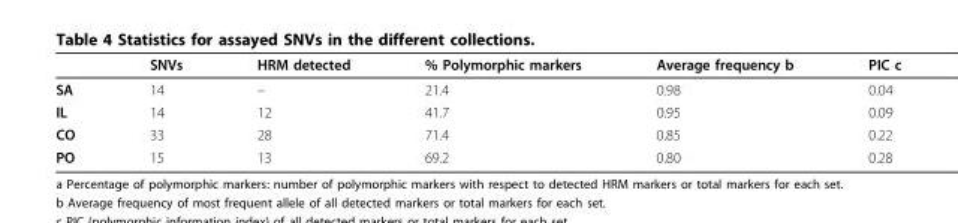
<table><thead><tr><td></td><td>SNVs</td><td>HRM detected</td><td>% Polymorphic markers</td><td>Average frequency b</td><td>PIC c</td></tr></thead><tbody><tr><td>SA</td><td>14</td><td>–</td><td>21.4</td><td>0.98</td><td>0.04</td></tr><tr><td>IL</td><td>14</td><td>12</td><td>41.7</td><td>0.95</td><td>0.09</td></tr><tr><td>CO</td><td>33</td><td>28</td><td>71.4</td><td>0.85</td><td>0.22</td></tr><tr><td>PO</td><td>15</td><td>13</td><td>69.2</td><td>0.80</td><td>0.28</td></tr></tbody></table>